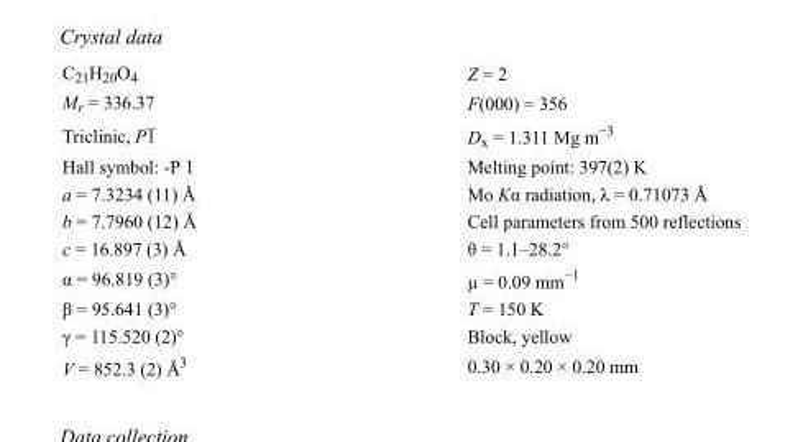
<table><tbody><tr><td>C<sub>21</sub>H<sub>20</sub>O<sub>4</sub></td><td>Z = 2</td></tr><tr><td>M<sub>r</sub> = 336.37</td><td>F(000) = 356</td></tr><tr><td>Triclinic, P1</td><td>D<sub>x</sub> = 1.311 Mg m<sup>−3</sup></td></tr><tr><td>Hall symbol: -P 1</td><td>Melting point: 397(2) K</td></tr><tr><td>a = 7.3234 (11) Å</td><td>Mo Kα radiation, λ = 0.71073 Å</td></tr><tr><td>b = 7.7960 (12) Å</td><td>Cell parameters from 500 reflections</td></tr><tr><td>c = 16.897 (3) Å</td><td>θ = 1.1–28.2°</td></tr><tr><td>α = 96.819 (3)°</td><td>µ = 0.09 mm<sup>−1</sup></td></tr><tr><td>β = 95.641 (3)°</td><td>T = 150 K</td></tr><tr><td>γ = 115.520 (2)°</td><td>Block, yellow</td></tr><tr><td>V = 852.3 (2) Å<sup>3</sup></td><td>0.30 × 0.20 × 0.20 mm</td></tr></tbody></table>